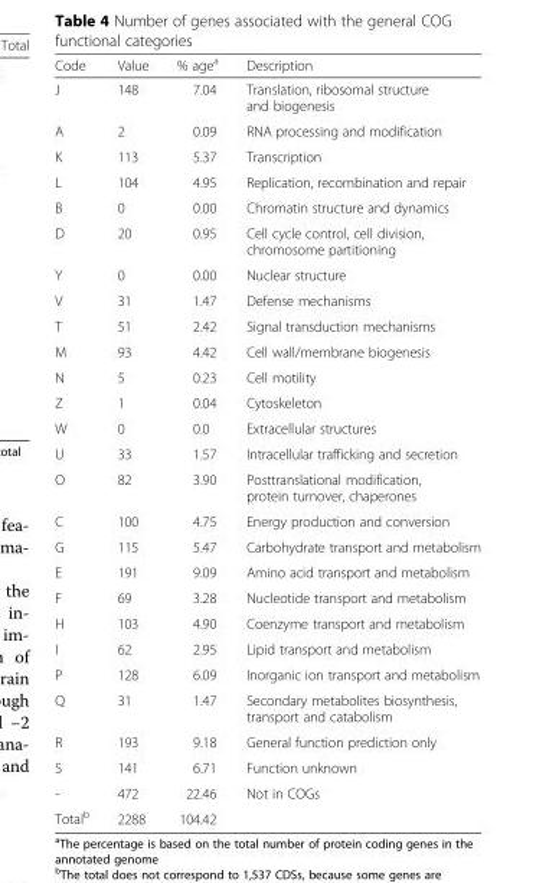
<table><thead><tr><td>Code</td><td>Value</td><td>% age<sup>a</sup></td><td>Description</td></tr></thead><tbody><tr><td>J</td><td>148</td><td>7.04</td><td>Translation, ribosomal structure and biogenesis</td></tr><tr><td>A</td><td>2</td><td>0.09</td><td>RNA processing and modification</td></tr><tr><td>K</td><td>113</td><td>5.37</td><td>Transcription</td></tr><tr><td>L</td><td>104</td><td>4.95</td><td>Replication, recombination and repair</td></tr><tr><td>B</td><td>0</td><td>0.00</td><td>Chromatin structure and dynamics</td></tr><tr><td>D</td><td>20</td><td>0.95</td><td>Cell cycle control, cell division, chromosome partitioning</td></tr><tr><td>Y</td><td>0</td><td>0.00</td><td>Nuclear structure</td></tr><tr><td>V</td><td>31</td><td>1.47</td><td>Defense mechanisms</td></tr><tr><td>T</td><td>51</td><td>2.42</td><td>Signal transduction mechanisms</td></tr><tr><td>M</td><td>93</td><td>4.42</td><td>Cell wall/membrane biogenesis</td></tr><tr><td>N</td><td>5</td><td>0.23</td><td>Cell motility</td></tr><tr><td>Z</td><td>1</td><td>0.04</td><td>Cytoskeleton</td></tr><tr><td>W</td><td>0</td><td>0.0</td><td>Extracellular structures</td></tr><tr><td>U</td><td>33</td><td>1.57</td><td>Intracellular trafficking and secretion</td></tr><tr><td>O</td><td>82</td><td>3.90</td><td>Posttranslational modification, protein turnover, chaperones</td></tr><tr><td>C</td><td>100</td><td>4.75</td><td>Energy production and conversion</td></tr><tr><td>G</td><td>115</td><td>5.47</td><td>Carbohydrate transport and metabolism</td></tr><tr><td>E</td><td>191</td><td>9.09</td><td>Amino acid transport and metabolism</td></tr><tr><td>F</td><td>69</td><td>3.28</td><td>Nucleotide transport and metabolism</td></tr><tr><td>H</td><td>103</td><td>4.90</td><td>Coenzyme transport and metabolism</td></tr><tr><td>I</td><td>62</td><td>2.95</td><td>Lipid transport and metabolism</td></tr><tr><td>P</td><td>128</td><td>6.09</td><td>Inorganic ion transport and metabolism</td></tr><tr><td>Q</td><td>31</td><td>1.47</td><td>Secondary metabolites biosynthesis, transport and catabolism</td></tr><tr><td>R</td><td>193</td><td>9.18</td><td>General function prediction only</td></tr><tr><td>S</td><td>141</td><td>6.71</td><td>Function unknown</td></tr><tr><td>-</td><td>472</td><td>22.46</td><td>Not in COGs</td></tr><tr><td>Total<sup>b</sup></td><td>2288</td><td>104.42</td><td></td></tr></tbody></table>